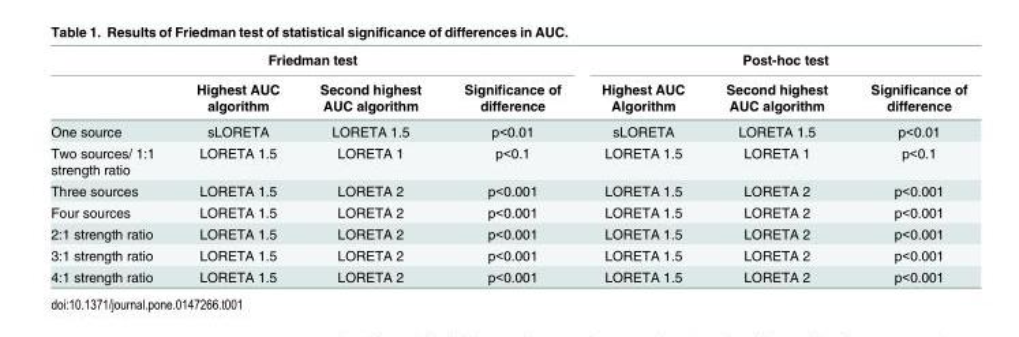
<table><thead><tr><td colspan="4">Friedman test</td><td colspan="3">Post-hoc test</td></tr><tr><td></td><td>Highest AUC algorithm</td><td>Second highest AUC algorithm</td><td>Significance of difference</td><td>Highest AUC Algorithm</td><td>Second highest AUC algorithm</td><td>Significance of difference</td></tr></thead><tbody><tr><td>One source</td><td>sLORETA</td><td>LORETA 1.5</td><td>p&lt;0.01</td><td>sLORETA</td><td>LORETA 1.5</td><td>p&lt;0.01</td></tr><tr><td>Two sources/ 1:1 strength ratio</td><td>LORETA 1.5</td><td>LORETA 1</td><td>p&lt;0.1</td><td>LORETA 1.5</td><td>LORETA 1</td><td>p&lt;0.1</td></tr><tr><td>Three sources</td><td>LORETA 1.5</td><td>LORETA 2</td><td>p&lt;0.001</td><td>LORETA 1.5</td><td>LORETA 2</td><td>p&lt;0.001</td></tr><tr><td>Four sources</td><td>LORETA 1.5</td><td>LORETA 2</td><td>p&lt;0.001</td><td>LORETA 1.5</td><td>LORETA 2</td><td>p&lt;0.001</td></tr><tr><td>2:1 strength ratio</td><td>LORETA 1.5</td><td>LORETA 2</td><td>p&lt;0.001</td><td>LORETA 1.5</td><td>LORETA 2</td><td>p&lt;0.001</td></tr><tr><td>3:1 strength ratio</td><td>LORETA 1.5</td><td>LORETA 2</td><td>p&lt;0.001</td><td>LORETA 1.5</td><td>LORETA 2</td><td>p&lt;0.001</td></tr><tr><td>4:1 strength ratio</td><td>LORETA 1.5</td><td>LORETA 2</td><td>p&lt;0.001</td><td>LORETA 1.5</td><td>LORETA 2</td><td>p&lt;0.001</td></tr></tbody></table>